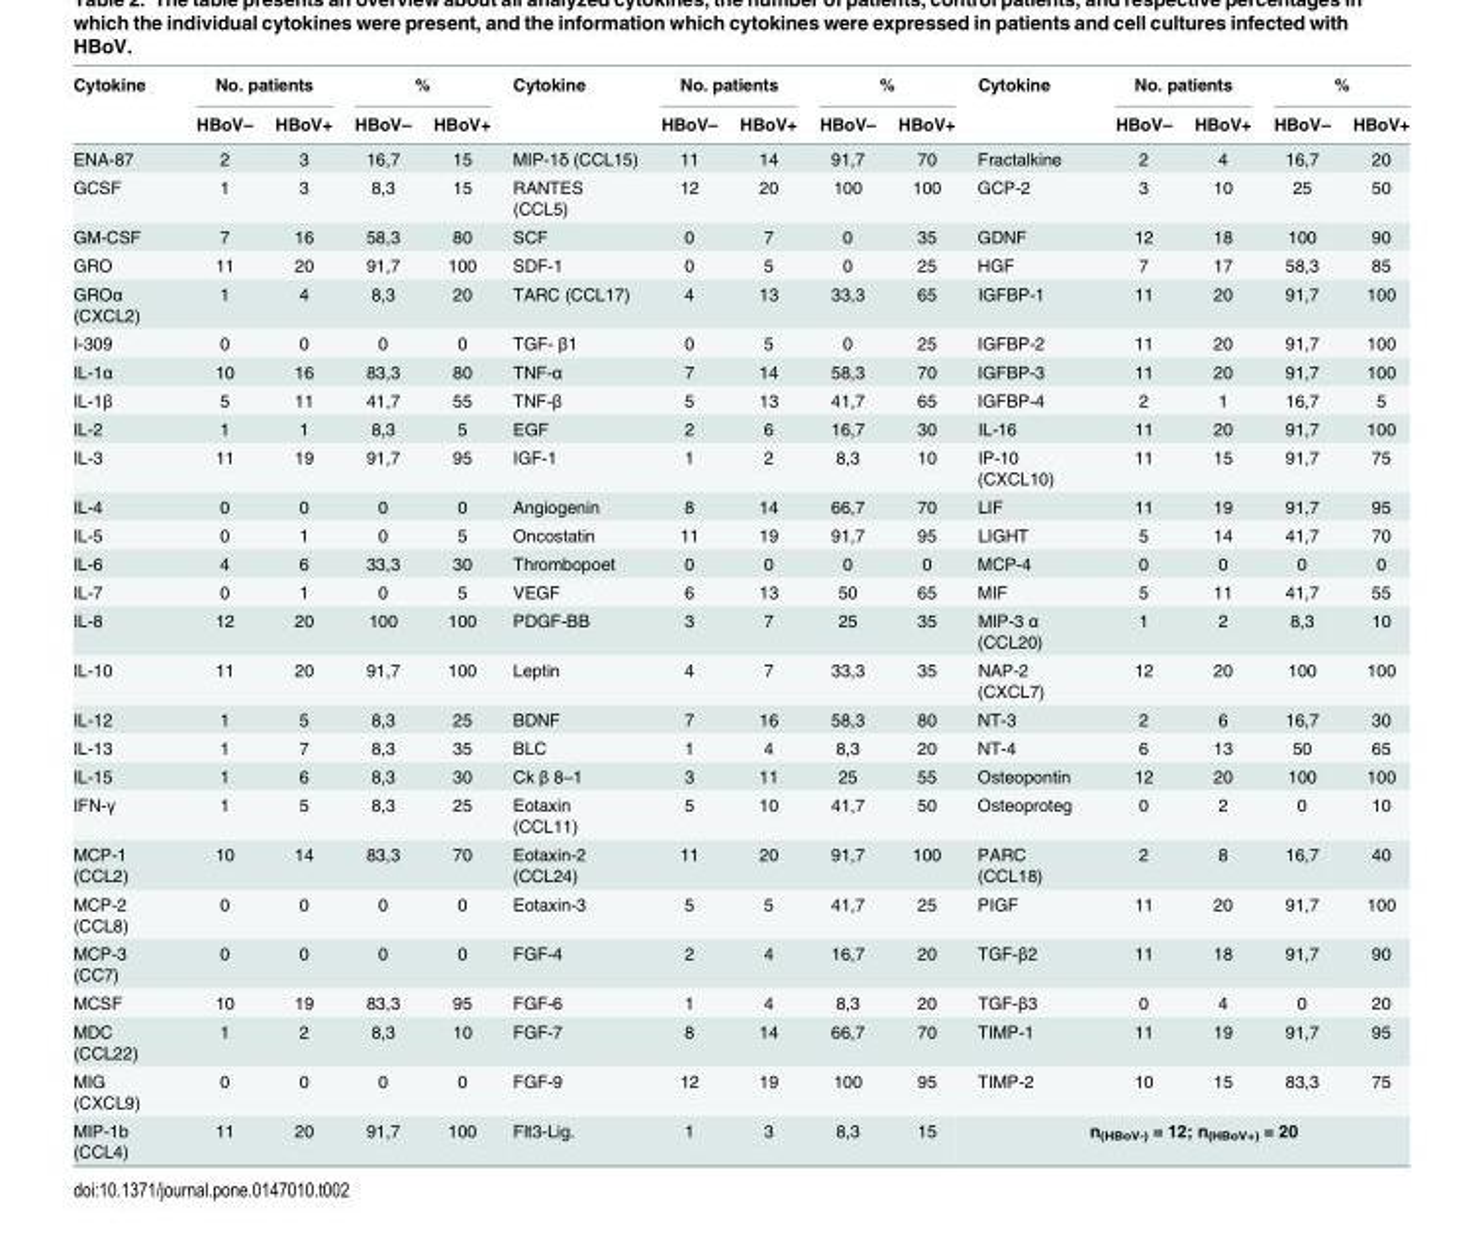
<table><thead><tr><td rowspan="2">Cytokine</td><td colspan="2">No. patients</td><td colspan="2">%</td><td rowspan="2">Cytokine</td><td colspan="2">No. patients</td><td colspan="2">%</td><td rowspan="2">Cytokine</td><td colspan="2">No. patients</td><td colspan="2">%</td></tr><tr><td>HBoV–</td><td>HBoV+</td><td>HBoV–</td><td>HBoV+</td><td>HBoV–</td><td>HBoV+</td><td>HBoV–</td><td>HBoV+</td><td>HBoV–</td><td>HBoV+</td><td>HBoV–</td><td>HBoV+</td></tr></thead><tbody><tr><td>ENA-87</td><td>2</td><td>3</td><td>16,7</td><td>15</td><td>MIP-1δ (CCL15)</td><td>11</td><td>14</td><td>91,7</td><td>70</td><td>Fractalkine</td><td>2</td><td>4</td><td>16,7</td><td>20</td></tr><tr><td>GCSF</td><td>1</td><td>3</td><td>8,3</td><td>15</td><td>RANTES (CCL5)</td><td>12</td><td>20</td><td>100</td><td>100</td><td>GCP-2</td><td>3</td><td>10</td><td>25</td><td>50</td></tr><tr><td>GM-CSF</td><td>7</td><td>16</td><td>58,3</td><td>80</td><td>SCF</td><td>0</td><td>7</td><td>0</td><td>35</td><td>GDNF</td><td>12</td><td>18</td><td>100</td><td>90</td></tr><tr><td>GRO</td><td>11</td><td>20</td><td>91,7</td><td>100</td><td>SDF-1</td><td>0</td><td>5</td><td>0</td><td>25</td><td>HGF</td><td>7</td><td>17</td><td>58,3</td><td>85</td></tr><tr><td>GROα (CXCL2)</td><td>1</td><td>4</td><td>8,3</td><td>20</td><td>TARC (CCL17)</td><td>4</td><td>13</td><td>33,3</td><td>65</td><td>IGFBP-1</td><td>11</td><td>20</td><td>91,7</td><td>100</td></tr><tr><td>I-309</td><td>0</td><td>0</td><td>0</td><td>0</td><td>TGF- β1</td><td>0</td><td>5</td><td>0</td><td>25</td><td>IGFBP-2</td><td>11</td><td>20</td><td>91,7</td><td>100</td></tr><tr><td>IL-1α</td><td>10</td><td>16</td><td>83,3</td><td>80</td><td>TNF-α</td><td>7</td><td>14</td><td>58,3</td><td>70</td><td>IGFBP-3</td><td>11</td><td>20</td><td>91,7</td><td>100</td></tr><tr><td>IL-1β</td><td>5</td><td>11</td><td>41,7</td><td>55</td><td>TNF-β</td><td>5</td><td>13</td><td>41,7</td><td>65</td><td>IGFBP-4</td><td>2</td><td>1</td><td>16,7</td><td>5</td></tr><tr><td>IL-2</td><td>1</td><td>1</td><td>8,3</td><td>5</td><td>EGF</td><td>2</td><td>6</td><td>16,7</td><td>30</td><td>IL-16</td><td>11</td><td>20</td><td>91,7</td><td>100</td></tr><tr><td>IL-3</td><td>11</td><td>19</td><td>91,7</td><td>95</td><td>IGF-1</td><td>1</td><td>2</td><td>8,3</td><td>10</td><td>IP-10 (CXCL10)</td><td>11</td><td>15</td><td>91,7</td><td>75</td></tr><tr><td>IL-4</td><td>0</td><td>0</td><td>0</td><td>0</td><td>Angiogenin</td><td>8</td><td>14</td><td>66,7</td><td>70</td><td>LIF</td><td>11</td><td>19</td><td>91,7</td><td>95</td></tr><tr><td>IL-5</td><td>0</td><td>1</td><td>0</td><td>5</td><td>Oncostatin</td><td>11</td><td>19</td><td>91,7</td><td>95</td><td>LIGHT</td><td>5</td><td>14</td><td>41,7</td><td>70</td></tr><tr><td>IL-6</td><td>4</td><td>6</td><td>33,3</td><td>30</td><td>Thrombopoet</td><td>0</td><td>0</td><td>0</td><td>0</td><td>MCP-4</td><td>0</td><td>0</td><td>0</td><td>0</td></tr><tr><td>IL-7</td><td>0</td><td>1</td><td>0</td><td>5</td><td>VEGF</td><td>6</td><td>13</td><td>50</td><td>65</td><td>MIF</td><td>5</td><td>11</td><td>41,7</td><td>55</td></tr><tr><td>IL-8</td><td>12</td><td>20</td><td>100</td><td>100</td><td>PDGF-BB</td><td>3</td><td>7</td><td>25</td><td>35</td><td>MIP-3 α (CCL20)</td><td>1</td><td>2</td><td>8,3</td><td>10</td></tr><tr><td>IL-10</td><td>11</td><td>20</td><td>91,7</td><td>100</td><td>Leptin</td><td>4</td><td>7</td><td>33,3</td><td>35</td><td>NAP-2 (CXCL7)</td><td>12</td><td>20</td><td>100</td><td>100</td></tr><tr><td>IL-12</td><td>1</td><td>5</td><td>8,3</td><td>25</td><td>BDNF</td><td>7</td><td>16</td><td>58,3</td><td>80</td><td>NT-3</td><td>2</td><td>6</td><td>16,7</td><td>30</td></tr><tr><td>IL-13</td><td>1</td><td>7</td><td>8,3</td><td>35</td><td>BLC</td><td>1</td><td>4</td><td>8,3</td><td>20</td><td>NT-4</td><td>6</td><td>13</td><td>50</td><td>65</td></tr><tr><td>IL-15</td><td>1</td><td>6</td><td>8,3</td><td>30</td><td>Ck β 8–1</td><td>3</td><td>11</td><td>25</td><td>55</td><td>Osteopontin</td><td>12</td><td>20</td><td>100</td><td>100</td></tr><tr><td>IFN-γ</td><td>1</td><td>5</td><td>8,3</td><td>25</td><td>Eotaxin (CCL11)</td><td>5</td><td>10</td><td>41,7</td><td>50</td><td>Osteoproteg</td><td>0</td><td>2</td><td>0</td><td>10</td></tr><tr><td>MCP-1 (CCL2)</td><td>10</td><td>14</td><td>83,3</td><td>70</td><td>Eotaxin-2 (CCL24)</td><td>11</td><td>20</td><td>91,7</td><td>100</td><td>PARC (CCL18)</td><td>2</td><td>8</td><td>16,7</td><td>40</td></tr><tr><td>MCP-2 (CCL8)</td><td>0</td><td>0</td><td>0</td><td>0</td><td>Eotaxin-3</td><td>5</td><td>5</td><td>41,7</td><td>25</td><td>PIGF</td><td>11</td><td>20</td><td>91,7</td><td>100</td></tr><tr><td>MCP-3 (CC7)</td><td>0</td><td>0</td><td>0</td><td>0</td><td>FGF-4</td><td>2</td><td>4</td><td>16,7</td><td>20</td><td>TGF-β2</td><td>11</td><td>18</td><td>91,7</td><td>90</td></tr><tr><td>MCSF</td><td>10</td><td>19</td><td>83,3</td><td>95</td><td>FGF-6</td><td>1</td><td>4</td><td>8,3</td><td>20</td><td>TGF-β3</td><td>0</td><td>4</td><td>0</td><td>20</td></tr><tr><td>MDC (CCL22)</td><td>1</td><td>2</td><td>8,3</td><td>10</td><td>FGF-7</td><td>8</td><td>14</td><td>66,7</td><td>70</td><td>TIMP-1</td><td>11</td><td>19</td><td>91,7</td><td>95</td></tr><tr><td>MIG (CXCL9)</td><td>0</td><td>0</td><td>0</td><td>0</td><td>FGF-9</td><td>12</td><td>19</td><td>100</td><td>95</td><td>TIMP-2</td><td>10</td><td>15</td><td>83,3</td><td>75</td></tr><tr><td>MIP-1b (CCL4)</td><td>11</td><td>20</td><td>91,7</td><td>100</td><td>Flt3-Lig.</td><td>1</td><td>3</td><td>8,3</td><td>15</td><td colspan="5">n<sub>(HBoV-)</sub> = 12; n<sub>(HBoV+)</sub> = 20</td></tr></tbody></table>